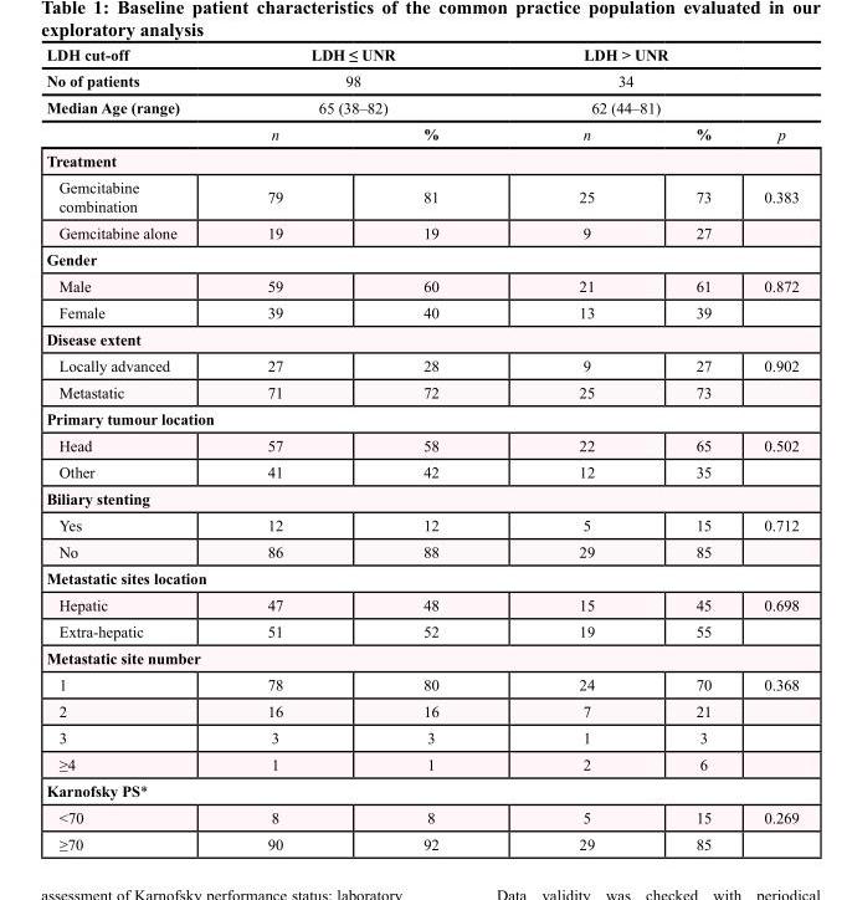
<table><thead><tr><td rowspan="4">LDH cut-off No of patients Median Age (range)</td><td rowspan="3" colspan="2">LDH ≤ UNR 98 65 (38–82)</td><td rowspan="3" colspan="2">LDH &gt; UNR 34 62 (44–81)</td><td rowspan="4">p</td></tr><tr></tr><tr></tr><tr><td>n</td><td>%</td><td>n</td><td>%</td></tr></thead><tbody><tr><td colspan="6">Treatment</td></tr><tr><td>Gemcitabine combination</td><td>79</td><td>81</td><td>25</td><td>73</td><td>0.383</td></tr><tr><td>Gemcitabine alone</td><td>19</td><td>19</td><td>9</td><td>27</td><td></td></tr><tr><td colspan="6">Gender</td></tr><tr><td>Male</td><td>59</td><td>60</td><td>21</td><td>61</td><td>0.872</td></tr><tr><td>Female</td><td>39</td><td>40</td><td>13</td><td>39</td><td></td></tr><tr><td colspan="6">Disease extent</td></tr><tr><td>Locally advanced</td><td>27</td><td>28</td><td>9</td><td>27</td><td>0.902</td></tr><tr><td>Metastatic</td><td>71</td><td>72</td><td>25</td><td>73</td><td></td></tr><tr><td colspan="6">Primary tumour location</td></tr><tr><td>Head</td><td>57</td><td>58</td><td>22</td><td>65</td><td>0.502</td></tr><tr><td>Other</td><td>41</td><td>42</td><td>12</td><td>35</td><td></td></tr><tr><td colspan="6">Biliary stenting</td></tr><tr><td>Yes</td><td>12</td><td>12</td><td>5</td><td>15</td><td>0.712</td></tr><tr><td>No</td><td>86</td><td>88</td><td>29</td><td>85</td><td></td></tr><tr><td colspan="6">Metastatic sites location</td></tr><tr><td>Hepatic</td><td>47</td><td>48</td><td>15</td><td>45</td><td>0.698</td></tr><tr><td>Extra-hepatic</td><td>51</td><td>52</td><td>19</td><td>55</td><td></td></tr><tr><td colspan="6">Metastatic site number</td></tr><tr><td>1</td><td>78</td><td>80</td><td>24</td><td>70</td><td>0.368</td></tr><tr><td>2</td><td>16</td><td>16</td><td>7</td><td>21</td><td></td></tr><tr><td>3</td><td>3</td><td>3</td><td>1</td><td>3</td><td></td></tr><tr><td>≥4</td><td>1</td><td>1</td><td>2</td><td>6</td><td></td></tr><tr><td colspan="6">Karnofsky PS*</td></tr><tr><td>&lt;70</td><td>8</td><td>8</td><td>5</td><td>15</td><td>0.269</td></tr><tr><td>≥70</td><td>90</td><td>92</td><td>29</td><td>85</td><td></td></tr></tbody></table>